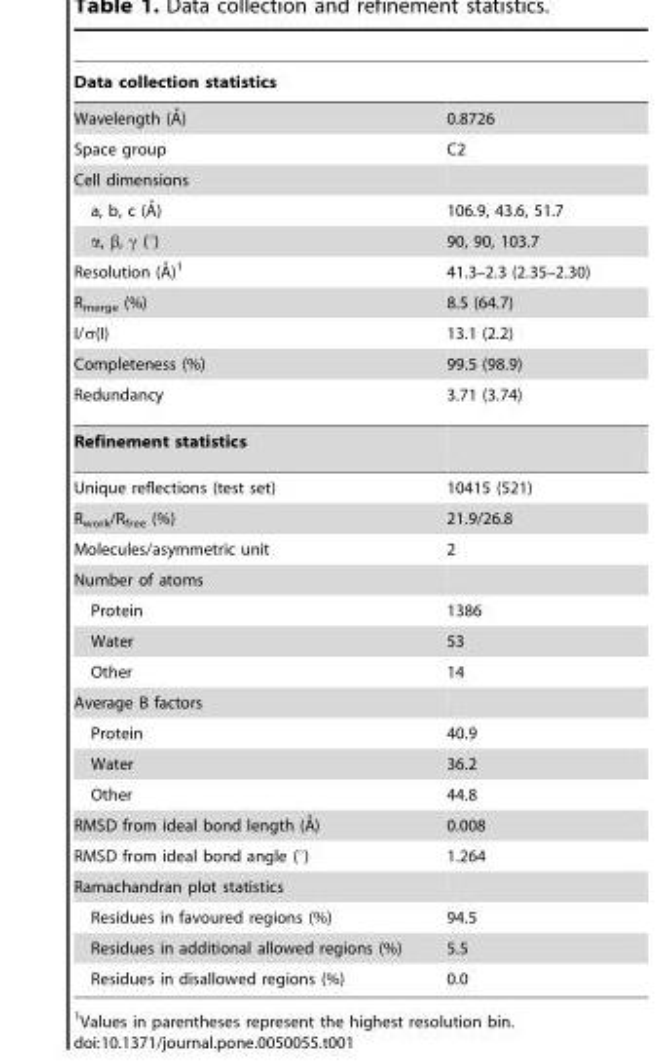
<table><thead><tr><td>Data collection statistics</td><td></td></tr></thead><tbody><tr><td>Wavelength (A˚)</td><td>0.8726</td></tr><tr><td>Space group</td><td>C2</td></tr><tr><td colspan="2">Cell dimensions</td></tr><tr><td>a, b, c (A˚)</td><td>106.9, 43.6, 51.7</td></tr><tr><td>α, β, γ (°)</td><td>90, 90, 103.7</td></tr><tr><td>Resolution (A˚)1</td><td>41.3–2.3 (2.35–2.30)</td></tr><tr><td>R<sub>merge</sub> (%)</td><td>8.5 (64.7)</td></tr><tr><td>I/σ(I)</td><td>13.1 (2.2)</td></tr><tr><td>Completeness (%)</td><td>99.5 (98.9)</td></tr><tr><td>Redundancy</td><td>3.71 (3.74)</td></tr><tr><td colspan="2">Refinement statistics</td></tr><tr><td>Unique reflections (test set)</td><td>10415 (521)</td></tr><tr><td>R<sub>work</sub>/R<sub>free</sub> (%)</td><td>21.9/26.8</td></tr><tr><td>Molecules/asymmetric unit</td><td>2</td></tr><tr><td colspan="2">Number of atoms</td></tr><tr><td>Protein</td><td>1386</td></tr><tr><td>Water</td><td>53</td></tr><tr><td>Other</td><td>14</td></tr><tr><td colspan="2">Average B factors</td></tr><tr><td>Protein</td><td>40.9</td></tr><tr><td>Water</td><td>36.2</td></tr><tr><td>Other</td><td>44.8</td></tr><tr><td>RMSD from ideal bond length (A˚)</td><td>0.008</td></tr><tr><td>RMSD from ideal bond angle (°)</td><td>1.264</td></tr><tr><td colspan="2">Ramachandran plot statistics</td></tr><tr><td>Residues in favoured regions (%)</td><td>94.5</td></tr><tr><td>Residues in additional allowed regions (%)</td><td>5.5</td></tr><tr><td>Residues in disallowed regions (%)</td><td>0.0</td></tr></tbody></table>